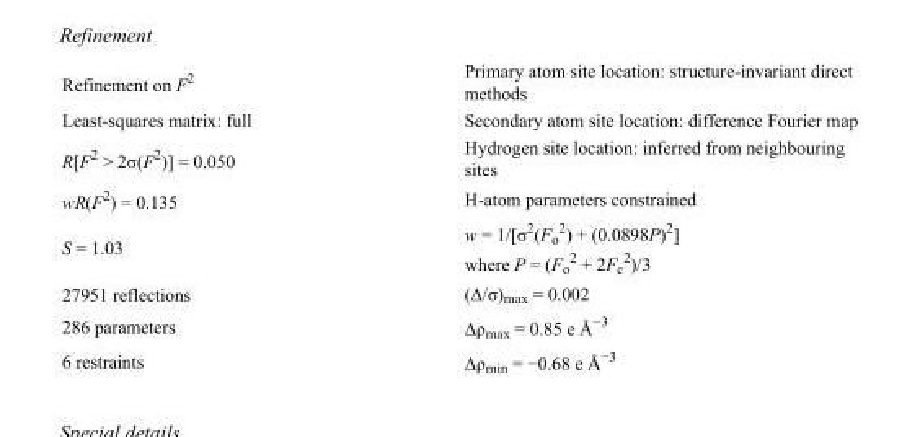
<table><tbody><tr><td>Refinement on F<sup>2</sup></td><td>Primary atom site location: structure-invariant direct methods</td></tr><tr><td>Least-squares matrix: full</td><td>Secondary atom site location: difference Fourier map</td></tr><tr><td>R[F<sup>2</sup> &gt; 2σ(F<sup>2</sup>)] = 0.050</td><td>Hydrogen site location: inferred from neighbouring sites</td></tr><tr><td>wR(F<sup>2</sup>) = 0.135</td><td>H-atom parameters constrained</td></tr><tr><td>S = 1.03</td><td>w = 1/[σ<sup>2</sup>(F<sub>o</sub> <sup>2</sup>) + (0.0898P)<sup>2</sup>] where P = (F<sub>o</sub> <sup>2</sup> + 2F<sub>c</sub> <sup>2</sup>)/3</td></tr><tr><td>27951 reflections</td><td>(Δ/σ)<sub>max</sub> = 0.002</td></tr><tr><td>286 parameters</td><td>Δρ<sub>max</sub> = 0.85 e Å<sup>−3</sup></td></tr><tr><td>6 restraints</td><td>Δρ<sub>min</sub> = −0.68 e Å<sup>−3</sup></td></tr></tbody></table>